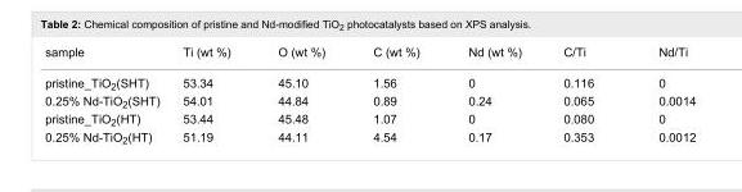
<table><tbody><tr><td>sample</td><td>Ti (wt %)</td><td>O (wt %)</td><td>C (wt %)</td><td>Nd (wt %)</td><td>C/Ti</td><td>Nd/Ti</td></tr><tr><td>pristine_TiO<sub>2</sub>(SHT)</td><td>53.34</td><td>45.10</td><td>1.56</td><td>0</td><td>0.116</td><td>0</td></tr><tr><td>0.25% Nd-TiO<sub>2</sub>(SHT)</td><td>54.01</td><td>44.84</td><td>0.89</td><td>0.24</td><td>0.065</td><td>0.0014</td></tr><tr><td>pristine_TiO<sub>2</sub>(HT)</td><td>53.44</td><td>45.48</td><td>1.07</td><td>0</td><td>0.080</td><td>0</td></tr><tr><td>0.25% Nd-TiO<sub>2</sub>(HT)</td><td>51.19</td><td>44.11</td><td>4.54</td><td>0.17</td><td>0.353</td><td>0.0012</td></tr></tbody></table>